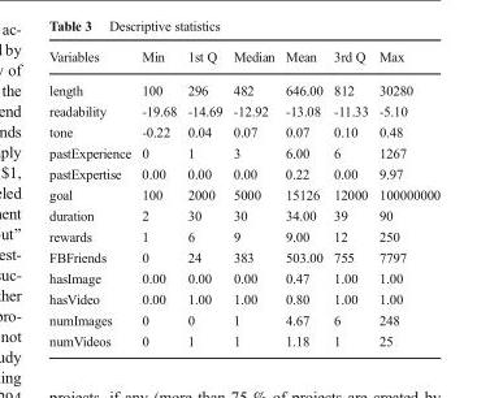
<table><thead><tr><td>Variables</td><td>Min</td><td>1st Q</td><td>Median</td><td>Mean</td><td>3rd Q</td><td>Max</td></tr></thead><tbody><tr><td>length</td><td>100</td><td>296</td><td>482</td><td>646.00</td><td>812</td><td>30280</td></tr><tr><td>readability</td><td>-19.68</td><td>-14.69</td><td>-12.92</td><td>-13.08</td><td>-11.33</td><td>-5.10</td></tr><tr><td>tone</td><td>-0.22</td><td>0.04</td><td>0.07</td><td>0.07</td><td>0.10</td><td>0.48</td></tr><tr><td>pastExperience</td><td>0</td><td>1</td><td>3</td><td>6.00</td><td>6</td><td>1267</td></tr><tr><td>pastExpertise</td><td>0.00</td><td>0.00</td><td>0.00</td><td>0.22</td><td>0.00</td><td>9.97</td></tr><tr><td>goal</td><td>100</td><td>2000</td><td>5000</td><td>15126</td><td>12000</td><td>100000000</td></tr><tr><td>duration</td><td>2</td><td>30</td><td>30</td><td>34.00</td><td>39</td><td>90</td></tr><tr><td>rewards</td><td>1</td><td>6</td><td>9</td><td>9.00</td><td>12</td><td>250</td></tr><tr><td>FBFriends</td><td>0</td><td>24</td><td>383</td><td>503.00</td><td>755</td><td>7797</td></tr><tr><td>hasImage</td><td>0.00</td><td>0.00</td><td>0.00</td><td>0.47</td><td>1.00</td><td>1.00</td></tr><tr><td>hasVideo</td><td>0.00</td><td>1.00</td><td>1.00</td><td>0.80</td><td>1.00</td><td>1.00</td></tr><tr><td>numImages</td><td>0</td><td>0</td><td>1</td><td>4.67</td><td>6</td><td>248</td></tr><tr><td>numVideos</td><td>0</td><td>1</td><td>1</td><td>1.18</td><td>1</td><td>25</td></tr></tbody></table>